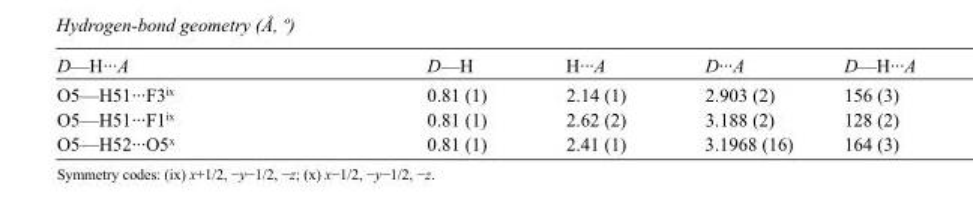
<table><tbody><tr><td>D—H···A</td><td>D—H</td><td>H···A</td><td>D···A</td><td>D—H···A</td></tr><tr><td>O5—H51···F3<sup>ix</sup></td><td>0.81 (1)</td><td>2.14 (1)</td><td>2.903 (2)</td><td>156 (3)</td></tr><tr><td>O5—H51···F1<sup>ix</sup></td><td>0.81 (1)</td><td>2.62 (2)</td><td>3.188 (2)</td><td>128 (2)</td></tr><tr><td>O5—H52···O5<sup>x</sup></td><td>0.81 (1)</td><td>2.41 (1)</td><td>3.1968 (16)</td><td>164 (3)</td></tr></tbody></table>